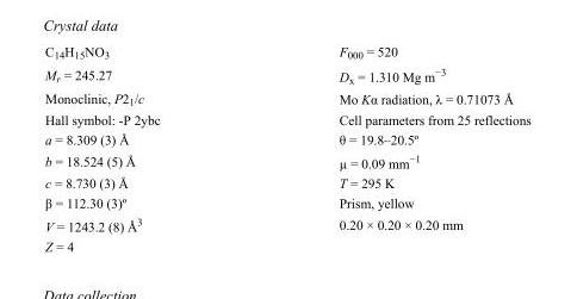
<table><tbody><tr><td>C<sub>14</sub>H<sub>15</sub>NO<sub>3</sub></td><td>F000 = 520</td></tr><tr><td>M<sub>r</sub> = 245.27</td><td>D<sub>x</sub> = 1.310 Mg m<sup>−3</sup></td></tr><tr><td>Monoclinic, P2<sub>1</sub>/c</td><td>Mo Kα radiation, λ = 0.71073 Å</td></tr><tr><td>Hall symbol: -P 2ybc</td><td>Cell parameters from 25 reflections</td></tr><tr><td>a = 8.309 (3) Å</td><td>θ = 19.8–20.5º</td></tr><tr><td>b = 18.524 (5) Å</td><td>µ = 0.09 mm<sup>−1</sup></td></tr><tr><td>c = 8.730 (3) Å</td><td>T = 295 K</td></tr><tr><td>β = 112.30 (3)º</td><td>Prism, yellow</td></tr><tr><td>V = 1243.2 (8) Å<sup>3</sup></td><td>0.20 × 0.20 × 0.20 mm</td></tr><tr><td>Z = 4</td><td></td></tr></tbody></table>